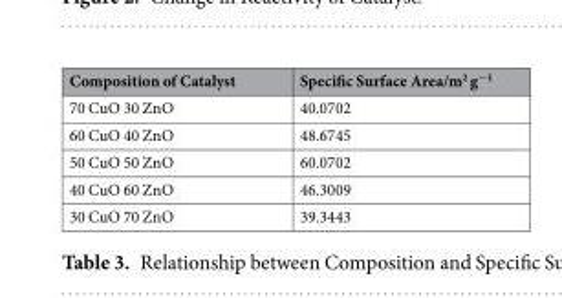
<table><thead><tr><td>Composition of Catalyst</td><td>Specific Surface Area/m<sup>2</sup> g<sup>−1</sup></td></tr></thead><tbody><tr><td>70 CuO 30 ZnO</td><td>40.0702</td></tr><tr><td>60 CuO 40 ZnO</td><td>48.6745</td></tr><tr><td>50 CuO 50 ZnO</td><td>60.0702</td></tr><tr><td>40 CuO 60 ZnO</td><td>46.3009</td></tr><tr><td>30 CuO 70 ZnO</td><td>39.3443</td></tr></tbody></table>